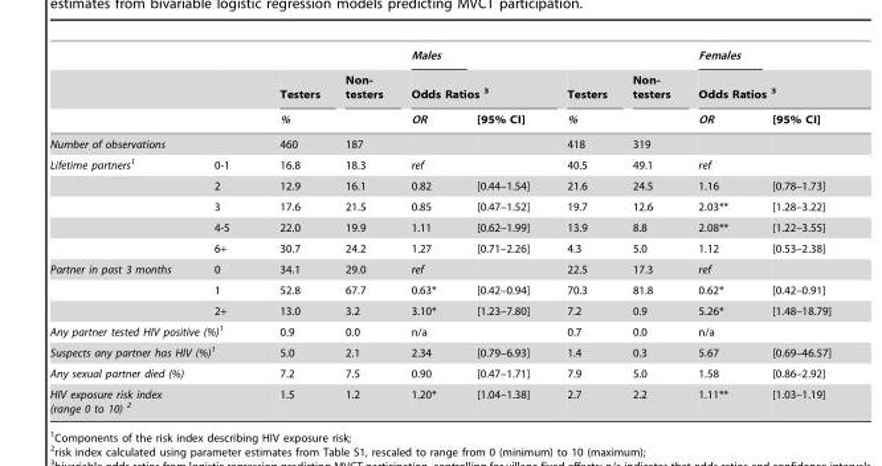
<table><thead><tr><td rowspan="3"></td><td rowspan="3"></td><td rowspan="2">Testers</td><td rowspan="2">Non- testers</td><td>Males</td><td></td><td rowspan="2">Testers</td><td rowspan="2">Non- testers</td><td>Females</td><td></td></tr><tr><td colspan="2">Odds Ratios 3</td><td colspan="2">Odds Ratios 3</td></tr><tr><td colspan="2">%</td><td>OR</td><td>[95% CI]</td><td colspan="2">%</td><td>OR</td><td>[95% CI]</td></tr></thead><tbody><tr><td>Number of observations</td><td></td><td>460</td><td>187</td><td></td><td></td><td>418</td><td>319</td><td></td><td></td></tr><tr><td rowspan="5">Lifetime partners1</td><td>0-1</td><td>16.8</td><td>18.3</td><td>ref</td><td></td><td>40.5</td><td>49.1</td><td>ref</td><td></td></tr><tr><td>2</td><td>12.9</td><td>16.1</td><td>0.82</td><td>[0.44–1.54]</td><td>21.6</td><td>24.5</td><td>1.16</td><td>[0.78–1.73]</td></tr><tr><td>3</td><td>17.6</td><td>21.5</td><td>0.85</td><td>[0.47–1.52]</td><td>19.7</td><td>12.6</td><td>2.03**</td><td>[1.28–3.22]</td></tr><tr><td>4-5</td><td>22.0</td><td>19.9</td><td>1.11</td><td>[0.62–1.99]</td><td>13.9</td><td>8.8</td><td>2.08**</td><td>[1.22–3.55]</td></tr><tr><td>6+</td><td>30.7</td><td>24.2</td><td>1.27</td><td>[0.71–2.26]</td><td>4.3</td><td>5.0</td><td>1.12</td><td>[0.53–2.38]</td></tr><tr><td rowspan="3">Partner in past 3 months</td><td>0</td><td>34.1</td><td>29.0</td><td>ref</td><td></td><td>22.5</td><td>17.3</td><td>ref</td><td></td></tr><tr><td>1</td><td>52.8</td><td>67.7</td><td>0.63*</td><td>[0.42–0.94]</td><td>70.3</td><td>81.8</td><td>0.62*</td><td>[0.42–0.91]</td></tr><tr><td>2+</td><td>13.0</td><td>3.2</td><td>3.10*</td><td>[1.23–7.80]</td><td>7.2</td><td>0.9</td><td>5.26*</td><td>[1.48–18.79]</td></tr><tr><td colspan="2">Any partner tested HIV positive (%)1</td><td>0.9</td><td>0.0</td><td>n/a</td><td></td><td>0.7</td><td>0.0</td><td>n/a</td><td></td></tr><tr><td colspan="2">Suspects any partner has HIV (%)1</td><td>5.0</td><td>2.1</td><td>2.34</td><td>[0.79–6.93]</td><td>1.4</td><td>0.3</td><td>5.67</td><td>[0.69–46.57]</td></tr><tr><td colspan="2">Any sexual partner died (%)</td><td>7.2</td><td>7.5</td><td>0.90</td><td>[0.47–1.71]</td><td>7.9</td><td>5.0</td><td>1.58</td><td>[0.86–2.92]</td></tr><tr><td colspan="2">HIV exposure risk index (range 0 to 10) 2</td><td>1.5</td><td>1.2</td><td>1.20*</td><td>[1.04–1.38]</td><td>2.7</td><td>2.2</td><td>1.11**</td><td>[1.03–1.19]</td></tr></tbody></table>